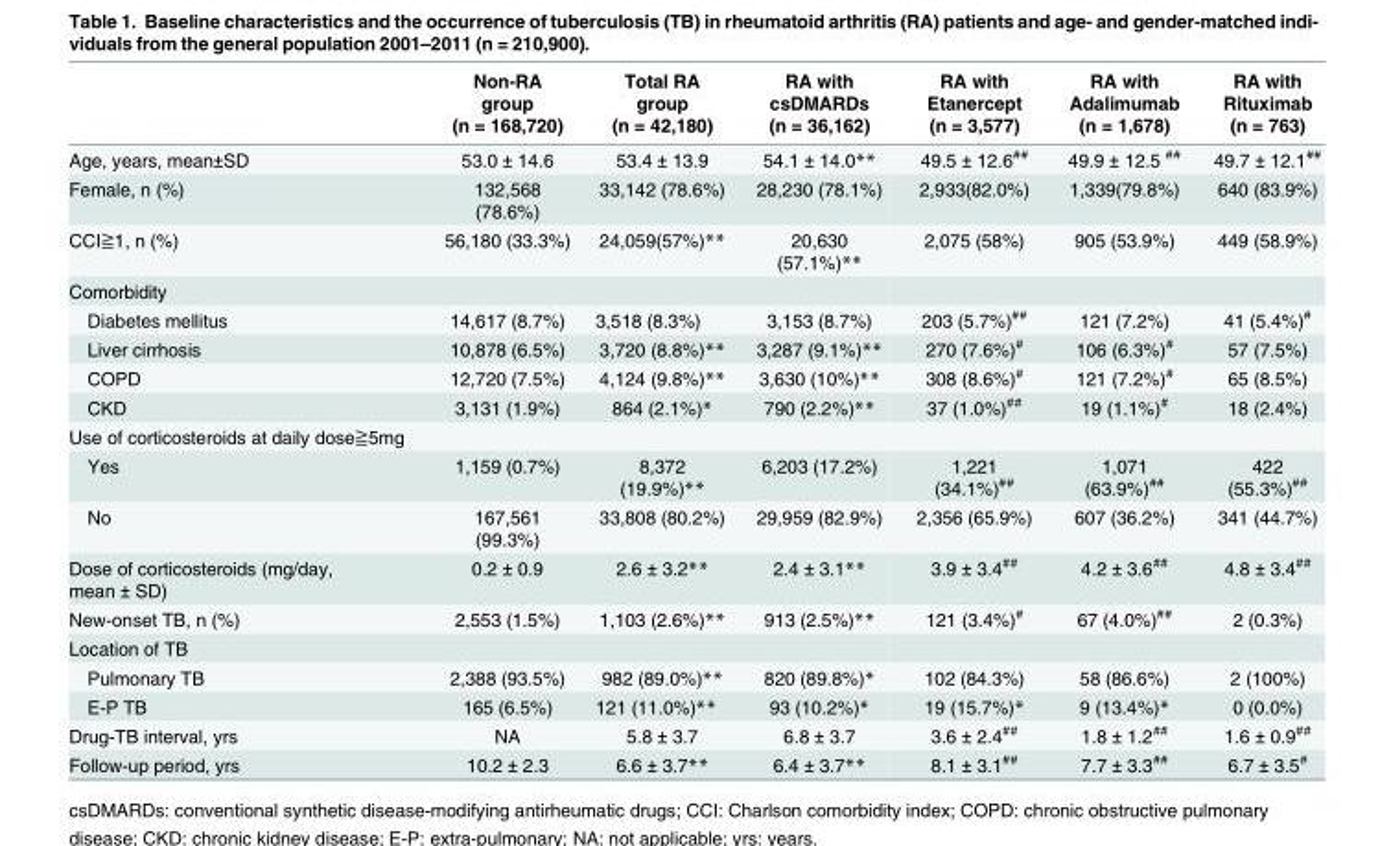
<table><thead><tr><td rowspan="3"></td><td rowspan="3">Non-RA group (n = 168,720)</td><td rowspan="3">Total RA group (n = 42,180)</td><td rowspan="3">RA with csDMARDs (n = 36,162)</td><td rowspan="3">RA with Etanercept (n = 3,577)</td><td rowspan="3">RA with Adalimumab (n = 1,678)</td><td rowspan="3">RA with Rituximab (n = 763)</td></tr><tr></tr><tr></tr></thead><tbody><tr><td>Age, years, mean±SD</td><td>53.0 ± 14.6</td><td>53.4 ± 13.9</td><td>54.1 ± 14.0**</td><td>49.5 ± 12.6<sup>##</sup></td><td>49.9 ± 12.5 <sup>##</sup></td><td>49.7 ± 12.1<sup>##</sup></td></tr><tr><td>Female, n (%)</td><td>132,568 (78.6%)</td><td>33,142 (78.6%)</td><td>28,230 (78.1%)</td><td>2,933(82.0%)</td><td>1,339(79.8%)</td><td>640 (83.9%)</td></tr><tr><td>CCI≧1, n (%)</td><td>56,180 (33.3%)</td><td>24,059(57%)**</td><td>20,630 (57.1%)**</td><td>2,075 (58%)</td><td>905 (53.9%)</td><td>449 (58.9%)</td></tr><tr><td colspan="7">Comorbidity</td></tr><tr><td>Diabetes mellitus</td><td>14,617 (8.7%)</td><td>3,518 (8.3%)</td><td>3,153 (8.7%)</td><td>203 (5.7%)<sup>##</sup></td><td>121 (7.2%)</td><td>41 (5.4%)<sup>#</sup></td></tr><tr><td>Liver cirrhosis</td><td>10,878 (6.5%)</td><td>3,720 (8.8%)**</td><td>3,287 (9.1%)**</td><td>270 (7.6%)<sup>#</sup></td><td>106 (6.3%)<sup>#</sup></td><td>57 (7.5%)</td></tr><tr><td>COPD</td><td>12,720 (7.5%)</td><td>4,124 (9.8%)**</td><td>3,630 (10%)**</td><td>308 (8.6%)<sup>#</sup></td><td>121 (7.2%)<sup>#</sup></td><td>65 (8.5%)</td></tr><tr><td>CKD</td><td>3,131 (1.9%)</td><td>864 (2.1%)*</td><td>790 (2.2%)**</td><td>37 (1.0%)<sup>##</sup></td><td>19 (1.1%)<sup>#</sup></td><td>18 (2.4%)</td></tr><tr><td colspan="7">Use of corticosteroids at daily dose≧5mg</td></tr><tr><td>Yes</td><td>1,159 (0.7%)</td><td>8,372 (19.9%)**</td><td>6,203 (17.2%)</td><td>1,221 (34.1%)<sup>##</sup></td><td>1,071 (63.9%)<sup>##</sup></td><td>422 (55.3%)<sup>##</sup></td></tr><tr><td>No</td><td>167,561 (99.3%)</td><td>33,808 (80.2%)</td><td>29,959 (82.9%)</td><td>2,356 (65.9%)</td><td>607 (36.2%)</td><td>341 (44.7%)</td></tr><tr><td>Dose of corticosteroids (mg/day, mean ± SD)</td><td>0.2 ± 0.9</td><td>2.6 ± 3.2**</td><td>2.4 ± 3.1**</td><td>3.9 ± 3.4<sup>##</sup></td><td>4.2 ± 3.6<sup>##</sup></td><td>4.8 ± 3.4<sup>##</sup></td></tr><tr><td>New-onset TB, n (%)</td><td>2,553 (1.5%)</td><td>1,103 (2.6%)**</td><td>913 (2.5%)**</td><td>121 (3.4%)<sup>#</sup></td><td>67 (4.0%)<sup>##</sup></td><td>2 (0.3%)</td></tr><tr><td colspan="7">Location of TB</td></tr><tr><td>Pulmonary TB</td><td>2,388 (93.5%)</td><td>982 (89.0%)**</td><td>820 (89.8%)*</td><td>102 (84.3%)</td><td>58 (86.6%)</td><td>2 (100%)</td></tr><tr><td>E-P TB</td><td>165 (6.5%)</td><td>121 (11.0%)**</td><td>93 (10.2%)*</td><td>19 (15.7%)*</td><td>9 (13.4%)*</td><td>0 (0.0%)</td></tr><tr><td>Drug-TB interval, yrs</td><td>NA</td><td>5.8 ± 3.7</td><td>6.8 ± 3.7</td><td>3.6 ± 2.4<sup>##</sup></td><td>1.8 ± 1.2<sup>##</sup></td><td>1.6 ± 0.9<sup>##</sup></td></tr><tr><td>Follow-up period, yrs</td><td>10.2 ± 2.3</td><td>6.6 ± 3.7**</td><td>6.4 ± 3.7**</td><td>8.1 ± 3.1<sup>##</sup></td><td>7.7 ± 3.3<sup>##</sup></td><td>6.7 ± 3.5<sup>#</sup></td></tr></tbody></table>